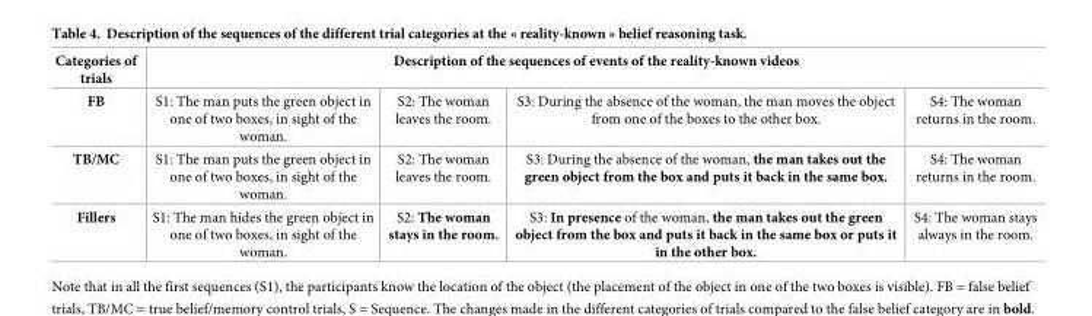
<table><thead><tr><td rowspan="2">Categories of trials FB</td><td colspan="4">Description of the sequences of events of the reality-known videos</td></tr><tr><td>S1: The man puts the green object in one of two boxes, in sight of the woman.</td><td>S2: The woman leaves the room.</td><td>S3: During the absence of the woman, the man moves the object from one of the boxes to the other box.</td><td>S4: The woman returns in the room.</td></tr></thead><tbody><tr><td>TB/MC</td><td>S1: The man puts the green object in one of two boxes, in sight of the woman.</td><td>S2: The woman leaves the room.</td><td>S3: During the absence of the woman, the man takes out the green object from the box and puts it back in the same box.</td><td>S4: The woman returns in the room.</td></tr><tr><td>Fillers</td><td>S1: The man hides the green object in one of two boxes, in sight of the woman.</td><td>S2: The woman stays in the room.</td><td>S3: In presence of the woman, the man takes out the green object from the box and puts it back in the same box or puts it in the other box.</td><td>S4: The woman stays always in the room.</td></tr></tbody></table>